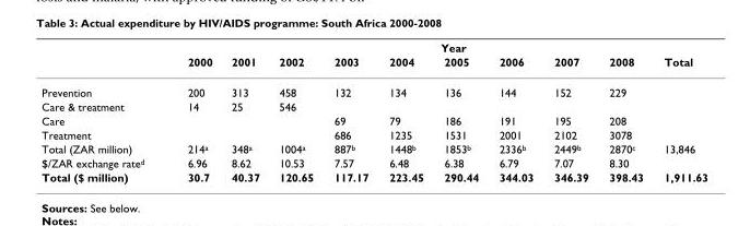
<table><thead><tr><td rowspan="2"></td><td colspan="10">Year</td></tr><tr><td>2000</td><td>2001</td><td>2002</td><td>2003</td><td>2004</td><td>2005</td><td>2006</td><td>2007</td><td>2008</td><td>Total</td></tr></thead><tbody><tr><td>Prevention</td><td>200</td><td>313</td><td>458</td><td>132</td><td>134</td><td>136</td><td>144</td><td>152</td><td>229</td><td></td></tr><tr><td>Care &amp; treatment</td><td>14</td><td>25</td><td>546</td><td></td><td></td><td></td><td></td><td></td><td></td><td></td></tr><tr><td>Care</td><td></td><td></td><td></td><td>69</td><td>79</td><td>186</td><td>191</td><td>195</td><td>208</td><td></td></tr><tr><td>Treatment</td><td></td><td></td><td></td><td>686</td><td>1235</td><td>1531</td><td>2001</td><td>2102</td><td>3078</td><td></td></tr><tr><td>Total (ZAR million)</td><td>214<sup>a</sup></td><td>348<sup>a</sup></td><td>1004<sup>a</sup></td><td>887<sup>b</sup></td><td>1448<sup>b</sup></td><td>1853<sup>b</sup></td><td>2336<sup>b</sup></td><td>2449<sup>b</sup></td><td>2870<sup>c</sup></td><td>13,846</td></tr><tr><td>$/ZAR exchange rate<sup>d</sup></td><td>6.96</td><td>8.62</td><td>10.53</td><td>7.57</td><td>6.48</td><td>6.38</td><td>6.79</td><td>7.07</td><td>8.30</td><td></td></tr><tr><td>Total ($ million)</td><td>30.7</td><td>40.37</td><td>120.65</td><td>117.17</td><td>223.45</td><td>290.44</td><td>344.03</td><td>346.39</td><td>398.43</td><td>1,911.63</td></tr></tbody></table>